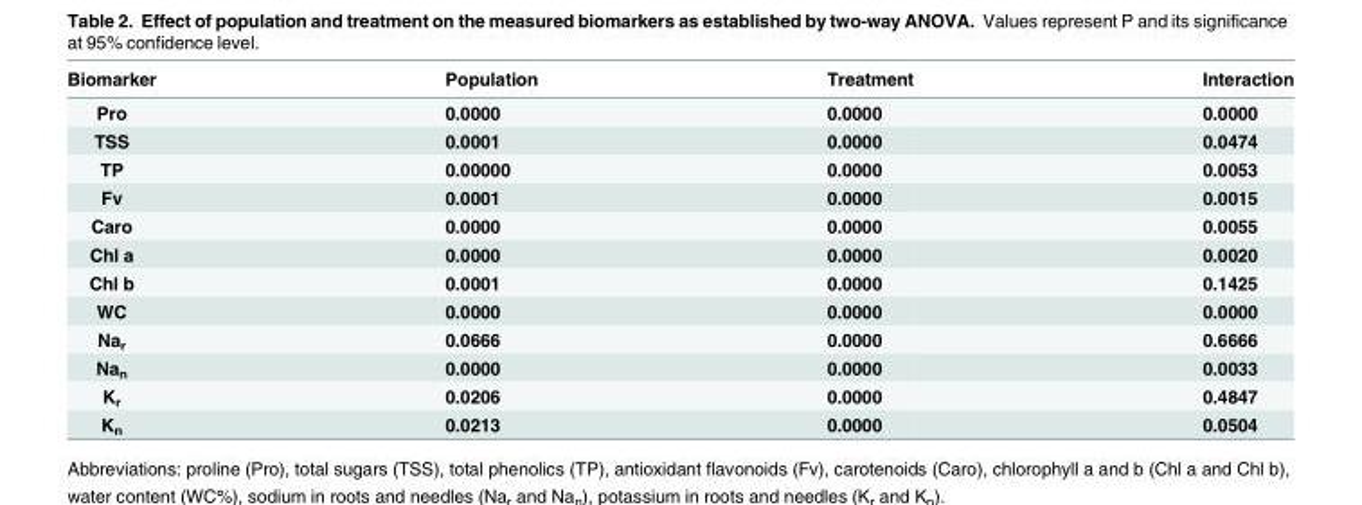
<table><thead><tr><td>Biomarker</td><td>Population</td><td>Treatment</td><td>Interaction</td></tr></thead><tbody><tr><td>Pro</td><td>0.0000</td><td>0.0000</td><td>0.0000</td></tr><tr><td>TSS</td><td>0.0001</td><td>0.0000</td><td>0.0474</td></tr><tr><td>TP</td><td>0.00000</td><td>0.0000</td><td>0.0053</td></tr><tr><td>Fv</td><td>0.0001</td><td>0.0000</td><td>0.0015</td></tr><tr><td>Caro</td><td>0.0000</td><td>0.0000</td><td>0.0055</td></tr><tr><td>Chl a</td><td>0.0000</td><td>0.0000</td><td>0.0020</td></tr><tr><td>Chl b</td><td>0.0001</td><td>0.0000</td><td>0.1425</td></tr><tr><td>WC</td><td>0.0000</td><td>0.0000</td><td>0.0000</td></tr><tr><td>Na<sub>r</sub></td><td>0.0666</td><td>0.0000</td><td>0.6666</td></tr><tr><td>Na<sub>n</sub></td><td>0.0000</td><td>0.0000</td><td>0.0033</td></tr><tr><td>K<sub>r</sub></td><td>0.0206</td><td>0.0000</td><td>0.4847</td></tr><tr><td>K<sub>n</sub></td><td>0.0213</td><td>0.0000</td><td>0.0504</td></tr></tbody></table>